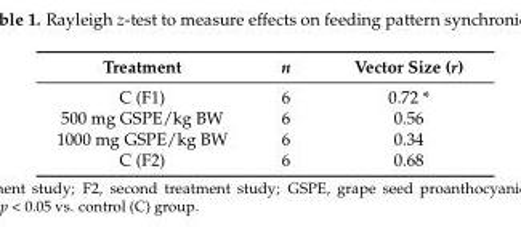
<table><thead><tr><td>Treatment</td><td>n</td><td>Vector Size (r)</td></tr></thead><tbody><tr><td>C (F1)</td><td>6</td><td>0.72 *</td></tr><tr><td>500 mg GSPE/kg BW</td><td>6</td><td>0.56</td></tr><tr><td>1000 mg GSPE/kg BW</td><td>6</td><td>0.34</td></tr><tr><td>C (F2)</td><td>6</td><td>0.68</td></tr></tbody></table>